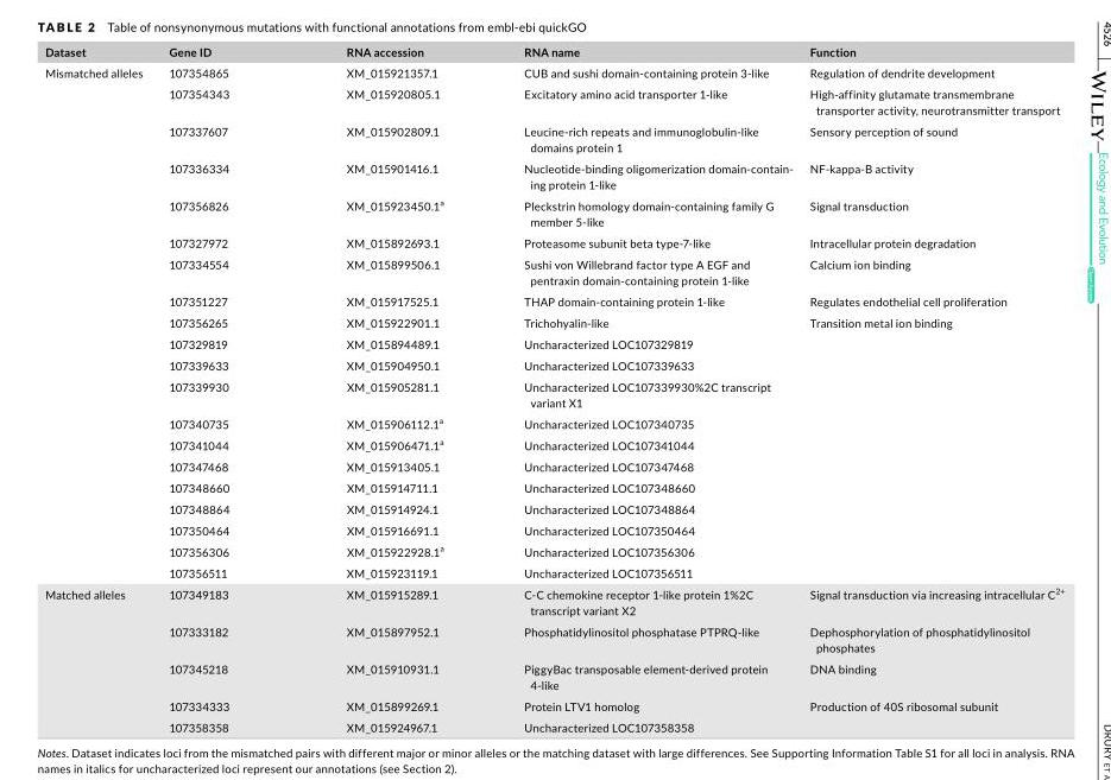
<table><thead><tr><td>Dataset</td><td>Gene ID</td><td>RNA accession</td><td>RNA name</td><td>Function</td></tr></thead><tbody><tr><td rowspan="20">Mismatched alleles</td><td>107354865</td><td>XM_015921357.1</td><td>CUB and sushi domain‐containing protein 3‐like</td><td>Regulation of dendrite development</td></tr><tr><td>107354343</td><td>XM_015920805.1</td><td>Excitatory amino acid transporter 1‐like</td><td>High‐affinity glutamate transmembrane transporter activity, neurotransmitter transport</td></tr><tr><td>107337607</td><td>XM_015902809.1</td><td>Leucine‐rich repeats and immunoglobulin‐like domains protein 1</td><td>Sensory perception of sound</td></tr><tr><td>107336334</td><td>XM_015901416.1</td><td>Nucleotide‐binding oligomerization domain‐contain‐ ing protein 1‐like</td><td>NF‐kappa‐B activity</td></tr><tr><td>107356826</td><td>XM_015923450.1<sup>a</sup></td><td>Pleckstrin homology domain‐containing family G member 5‐like</td><td>Signal transduction</td></tr><tr><td>107327972</td><td>XM_015892693.1</td><td>Proteasome subunit beta type‐7‐like</td><td>Intracellular protein degradation</td></tr><tr><td>107334554</td><td>XM_015899506.1</td><td>Sushi von Willebrand factor type A EGF and pentraxin domain‐containing protein 1‐like</td><td>Calcium ion binding</td></tr><tr><td>107351227</td><td>XM_015917525.1</td><td>THAP domain‐containing protein 1‐like</td><td>Regulates endothelial cell proliferation</td></tr><tr><td>107356265</td><td>XM_015922901.1</td><td>Trichohyalin‐like</td><td>Transition metal ion binding</td></tr><tr><td>107329819</td><td>XM_015894489.1</td><td>Uncharacterized LOC107329819</td><td></td></tr><tr><td>107339633</td><td>XM_015904950.1</td><td>Uncharacterized LOC107339633</td><td></td></tr><tr><td>107339930</td><td>XM_015905281.1</td><td>Uncharacterized LOC107339930%2C transcript variant X1</td><td></td></tr><tr><td>107340735</td><td>XM_015906112.1<sup>a</sup></td><td>Uncharacterized LOC107340735</td><td></td></tr><tr><td>107341044</td><td>XM_015906471.1<sup>a</sup></td><td>Uncharacterized LOC107341044</td><td></td></tr><tr><td>107347468</td><td>XM_015913405.1</td><td>Uncharacterized LOC107347468</td><td></td></tr><tr><td>107348660</td><td>XM_015914711.1</td><td>Uncharacterized LOC107348660</td><td></td></tr><tr><td>107348864</td><td>XM_015914924.1</td><td>Uncharacterized LOC107348864</td><td></td></tr><tr><td>107350464</td><td>XM_015916691.1</td><td>Uncharacterized LOC107350464</td><td></td></tr><tr><td>107356306</td><td>XM_015922928.1<sup>a</sup></td><td>Uncharacterized LOC107356306</td><td></td></tr><tr><td>107356511</td><td>XM_015923119.1</td><td>Uncharacterized LOC107356511</td><td></td></tr><tr><td rowspan="5">Matched alleles</td><td>107349183</td><td>XM_015915289.1</td><td>C‐C chemokine receptor 1‐like protein 1%2C transcript variant X2</td><td>Signal transduction via increasing intracellular C<sup>2+</sup></td></tr><tr><td>107333182</td><td>XM_015897952.1</td><td>Phosphatidylinositol phosphatase PTPRQ‐like</td><td>Dephosphorylation of phosphatidylinositol phosphates</td></tr><tr><td>107345218</td><td>XM_015910931.1</td><td>PiggyBac transposable element‐derived protein 4‐like</td><td>DNA binding</td></tr><tr><td>107334333</td><td>XM_015899269.1</td><td>Protein LTV1 homolog</td><td>Production of 40S ribosomal subunit</td></tr><tr><td>107358358</td><td>XM_015924967.1</td><td>Uncharacterized LOC107358358</td><td></td></tr></tbody></table>